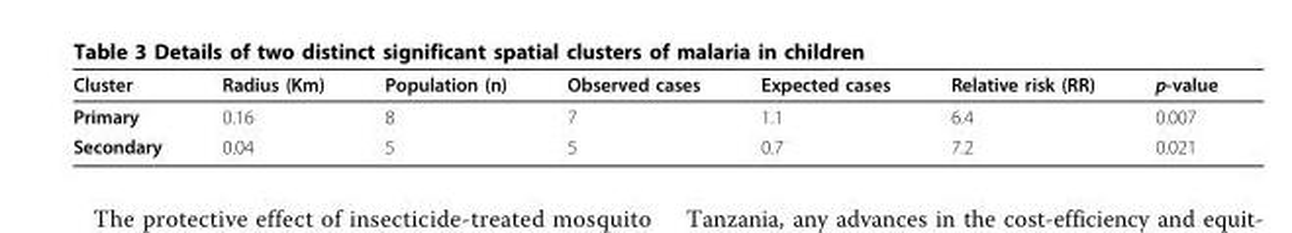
<table><thead><tr><td>Cluster</td><td>Radius (Km)</td><td>Population (n)</td><td>Observed cases</td><td>Expected cases</td><td>Relative risk (RR)</td><td>p-value</td></tr></thead><tbody><tr><td>Primary</td><td>0.16</td><td>8</td><td>7</td><td>1.1</td><td>6.4</td><td>0.007</td></tr><tr><td>Secondary</td><td>0.04</td><td>5</td><td>5</td><td>0.7</td><td>7.2</td><td>0.021</td></tr></tbody></table>